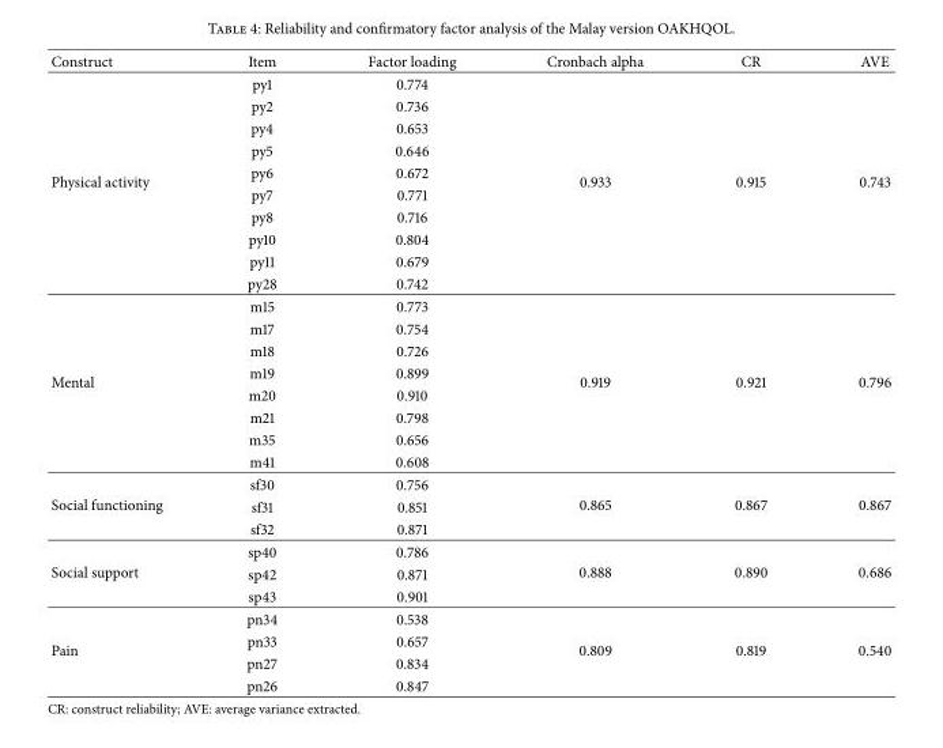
<table><thead><tr><td>Construct</td><td>Item</td><td>Factor loading</td><td>Cronbach alpha</td><td>CR</td><td>AVE</td></tr></thead><tbody><tr><td rowspan="10">Physical activity</td><td>py1</td><td>0.774</td><td rowspan="10">0.933</td><td rowspan="10">0.915</td><td rowspan="10">0.743</td></tr><tr><td>py2</td><td>0.736</td></tr><tr><td>py4</td><td>0.653</td></tr><tr><td>py5</td><td>0.646</td></tr><tr><td>py6</td><td>0.672</td></tr><tr><td>py7</td><td>0.771</td></tr><tr><td>py8</td><td>0.716</td></tr><tr><td>py10</td><td>0.804</td></tr><tr><td>py11</td><td>0.679</td></tr><tr><td>py28</td><td>0.742</td></tr><tr><td rowspan="8">Mental</td><td>m15</td><td>0.773</td><td rowspan="8">0.919</td><td rowspan="8">0.921</td><td rowspan="8">0.796</td></tr><tr><td>m17</td><td>0.754</td></tr><tr><td>m18</td><td>0.726</td></tr><tr><td>m19</td><td>0.899</td></tr><tr><td>m20</td><td>0.910</td></tr><tr><td>m21</td><td>0.798</td></tr><tr><td>m35</td><td>0.656</td></tr><tr><td>m41</td><td>0.608</td></tr><tr><td rowspan="3">Social functioning</td><td>sf30</td><td>0.756</td><td rowspan="3">0.865</td><td rowspan="3">0.867</td><td rowspan="3">0.867</td></tr><tr><td>sf31</td><td>0.851</td></tr><tr><td>sf32</td><td>0.871</td></tr><tr><td rowspan="3">Social support</td><td>sp40</td><td>0.786</td><td rowspan="3">0.888</td><td rowspan="3">0.890</td><td rowspan="3">0.686</td></tr><tr><td>sp42</td><td>0.871</td></tr><tr><td>sp43</td><td>0.901</td></tr><tr><td rowspan="4">Pain</td><td>pn34</td><td>0.538</td><td rowspan="4">0.809</td><td rowspan="4">0.819</td><td rowspan="4">0.540</td></tr><tr><td>pn33</td><td>0.657</td></tr><tr><td>pn27</td><td>0.834</td></tr><tr><td>pn26</td><td>0.847</td></tr></tbody></table>